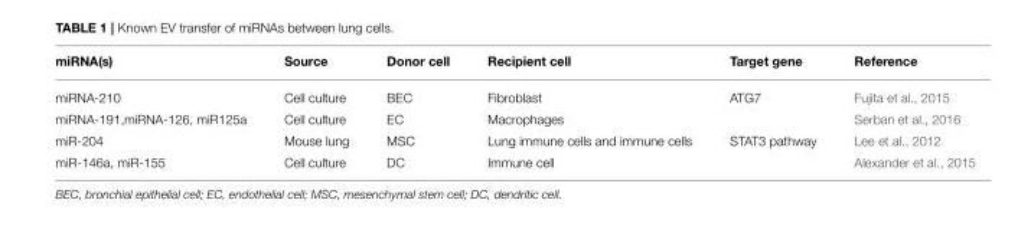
<table><thead><tr><td>miRNA(s)</td><td>Source</td><td>Donor cell</td><td>Recipient cell</td><td>Target gene</td><td>Reference</td></tr></thead><tbody><tr><td>miRNA-210</td><td>Cell culture</td><td>BEC</td><td>Fibroblast</td><td>ATG7</td><td>Fujita et al., 2015</td></tr><tr><td>miRNA-191,miRNA-126, miR125a</td><td>Cell culture</td><td>EC</td><td>Macrophages</td><td></td><td>Serban et al., 2016</td></tr><tr><td>miR-204</td><td>Mouse lung</td><td>MSC</td><td>Lung immune cells and immune cells</td><td>STAT3 pathway</td><td>Lee et al., 2012</td></tr><tr><td>miR-146a, miR-155</td><td>Cell culture</td><td>DC</td><td>Immune cell</td><td></td><td>Alexander et al., 2015</td></tr></tbody></table>